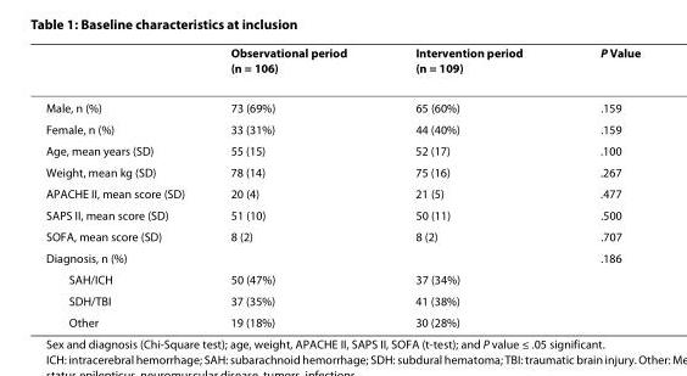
<table><thead><tr><td></td><td>Observational period (n = 106)</td><td>Intervention period (n = 109)</td><td>P Value</td></tr></thead><tbody><tr><td>Male, n (%)</td><td>73 (69%)</td><td>65 (60%)</td><td>.159</td></tr><tr><td>Female, n (%)</td><td>33 (31%)</td><td>44 (40%)</td><td>.159</td></tr><tr><td>Age, mean years (SD)</td><td>55 (15)</td><td>52 (17)</td><td>.100</td></tr><tr><td>Weight, mean kg (SD)</td><td>78 (14)</td><td>75 (16)</td><td>.267</td></tr><tr><td>APACHE II, mean score (SD)</td><td>20 (4)</td><td>21 (5)</td><td>.477</td></tr><tr><td>SAPS II, mean score (SD)</td><td>51 (10)</td><td>50 (11)</td><td>.500</td></tr><tr><td>SOFA, mean score (SD)</td><td>8 (2)</td><td>8 (2)</td><td>.707</td></tr><tr><td>Diagnosis, n (%)</td><td></td><td></td><td>.186</td></tr><tr><td>SAH/ICH</td><td>50 (47%)</td><td>37 (34%)</td><td></td></tr><tr><td>SDH/TBI</td><td>37 (35%)</td><td>41 (38%)</td><td></td></tr><tr><td>Other</td><td>19 (18%)</td><td>30 (28%)</td><td></td></tr></tbody></table>